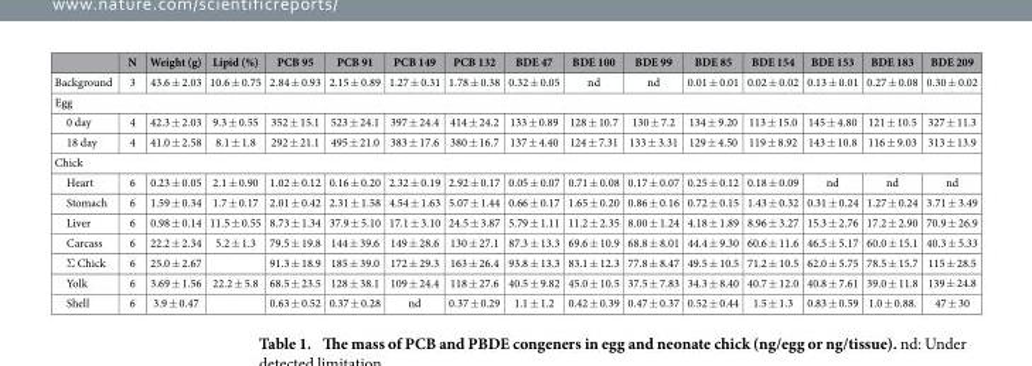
<table><thead><tr><td></td><td>N</td><td>Weight (g)</td><td>Lipid (%)</td><td>PCB 95</td><td>PCB 91</td><td>PCB 149</td><td>PCB 132</td><td>BDE 47</td><td>BDE 100</td><td>BDE 99</td><td>BDE 85</td><td>BDE 154</td><td>BDE 153</td><td>BDE 183</td><td>BDE 209</td></tr></thead><tbody><tr><td>Background</td><td>3</td><td>43.6 ± 2.03</td><td>10.6 ± 0.75</td><td>2.84 ± 0.93</td><td>2.15 ± 0.89</td><td>1.27 ± 0.31</td><td>1.78 ± 0.38</td><td>0.32 ± 0.05</td><td>nd</td><td>nd</td><td>0.01 ± 0.01</td><td>0.02 ± 0.02</td><td>0.13 ± 0.01</td><td>0.27 ± 0.08</td><td>0.30 ± 0.02</td></tr><tr><td colspan="16">Egg</td></tr><tr><td>0 day</td><td>4</td><td>42.3 ± 2.03</td><td>9.3 ± 0.55</td><td>352 ± 15.1</td><td>523 ± 24.1</td><td>397 ± 24.4</td><td>414 ± 24.2</td><td>133 ± 0.89</td><td>128 ± 10.7</td><td>130 ± 7.2</td><td>134 ± 9.20</td><td>113 ± 15.0</td><td>145 ± 4.80</td><td>121 ± 10.5</td><td>327 ± 11.3</td></tr><tr><td>18 day</td><td>4</td><td>41.0 ± 2.58</td><td>8.1 ± 1.8</td><td>292 ± 21.1</td><td>495 ± 21.0</td><td>383 ± 17.6</td><td>380 ± 16.7</td><td>137 ± 4.40</td><td>124 ± 7.31</td><td>133 ± 3.31</td><td>129 ± 4.50</td><td>119 ± 8.92</td><td>143 ± 10.8</td><td>116 ± 9.03</td><td>313 ± 13.9</td></tr><tr><td colspan="16">Chick</td></tr><tr><td>Heart</td><td>6</td><td>0.23 ± 0.05</td><td>2.1 ± 0.90</td><td>1.02 ± 0.12</td><td>0.16 ± 0.20</td><td>2.32 ± 0.19</td><td>2.92 ± 0.17</td><td>0.05 ± 0.07</td><td>0.71 ± 0.08</td><td>0.17 ± 0.07</td><td>0.25 ± 0.12</td><td>0.18 ± 0.09</td><td>nd</td><td>nd</td><td>nd</td></tr><tr><td>Stomach</td><td>6</td><td>1.59 ± 0.34</td><td>1.7 ± 0.17</td><td>2.01 ± 0.42</td><td>2.31 ± 1.58</td><td>4.54 ± 1.63</td><td>5.07 ± 1.44</td><td>0.66 ± 0.17</td><td>1.65 ± 0.20</td><td>0.86 ± 0.16</td><td>0.72 ± 0.15</td><td>1.43 ± 0.32</td><td>0.31 ± 0.24</td><td>1.27 ± 0.24</td><td>3.71 ± 3.49</td></tr><tr><td>Liver</td><td>6</td><td>0.98 ± 0.14</td><td>11.5 ± 0.55</td><td>8.73 ± 1.34</td><td>37.9 ± 5.10</td><td>17.1 ± 3.10</td><td>24.5 ± 3.87</td><td>5.79 ± 1.11</td><td>11.2 ± 2.35</td><td>8.00 ± 1.24</td><td>4.18 ± 1.89</td><td>8.96 ± 3.27</td><td>15.3 ± 2.76</td><td>17.2 ± 2.90</td><td>70.9 ± 26.9</td></tr><tr><td>Carcass</td><td>6</td><td>22.2 ± 2.34</td><td>5.2 ± 1.3</td><td>79.5 ± 19.8</td><td>144 ± 39.6</td><td>149 ± 28.6</td><td>130 ± 27.1</td><td>87.3 ± 13.3</td><td>69.6 ± 10.9</td><td>68.8 ± 8.01</td><td>44.4 ± 9.30</td><td>60.6 ± 11.6</td><td>46.5 ± 5.17</td><td>60.0 ± 15.1</td><td>40.3 ± 5.33</td></tr><tr><td>Σ Chick</td><td>6</td><td>25.0 ± 2.67</td><td></td><td>91.3 ± 18.9</td><td>185 ± 39.0</td><td>172 ± 29.3</td><td>163 ± 26.4</td><td>93.8 ± 13.3</td><td>83.1 ± 12.3</td><td>77.8 ± 8.47</td><td>49.5 ± 10.5</td><td>71.2 ± 10.5</td><td>62.0 ± 5.75</td><td>78.5 ± 15.7</td><td>115 ± 28.5</td></tr><tr><td>Yolk</td><td>6</td><td>3.69 ± 1.56</td><td>22.2 ± 5.8</td><td>68.5 ± 23.5</td><td>128 ± 38.1</td><td>109 ± 24.4</td><td>118 ± 27.6</td><td>40.5 ± 9.82</td><td>45.0 ± 10.5</td><td>37.5 ± 7.83</td><td>34.3 ± 8.40</td><td>40.7 ± 12.0</td><td>40.8 ± 7.61</td><td>39.0 ± 11.8</td><td>139 ± 24.8</td></tr><tr><td>Shell</td><td>6</td><td>3.9 ± 0.47</td><td></td><td>0.63 ± 0.52</td><td>0.37 ± 0.28</td><td>nd</td><td>0.37 ± 0.29</td><td>1.1 ± 1.2</td><td>0.42 ± 0.39</td><td>0.47 ± 0.37</td><td>0.52 ± 0.44</td><td>1.5 ± 1.3</td><td>0.83 ± 0.59</td><td>1.0 ± 0.88.</td><td>47 ± 30</td></tr></tbody></table>